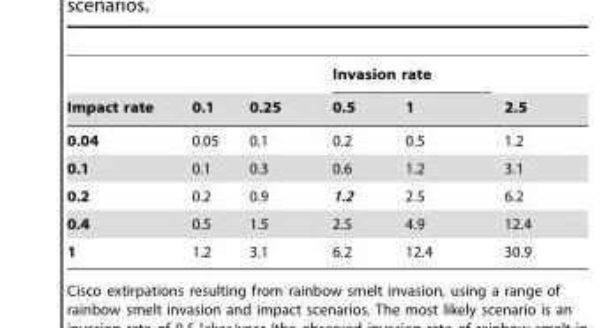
<table><thead><tr><td rowspan="2">Impact rate</td><td rowspan="2">0.1</td><td rowspan="2">0.25</td><td colspan="2">Invasion rate</td><td rowspan="2">2.5</td></tr><tr><td>0.5</td><td>1</td></tr></thead><tbody><tr><td>0.04</td><td>0.05</td><td>0.1</td><td>0.2</td><td>0.5</td><td>1.2</td></tr><tr><td>0.1</td><td>0.1</td><td>0.3</td><td>0.6</td><td>1.2</td><td>3.1</td></tr><tr><td>0.2</td><td>0.2</td><td>0.9</td><td>1.2</td><td>2.5</td><td>6.2</td></tr><tr><td>0.4</td><td>0.5</td><td>1.5</td><td>2.5</td><td>4.9</td><td>12.4</td></tr><tr><td>1</td><td>1.2</td><td>3.1</td><td>6.2</td><td>12.4</td><td>30.9</td></tr></tbody></table>